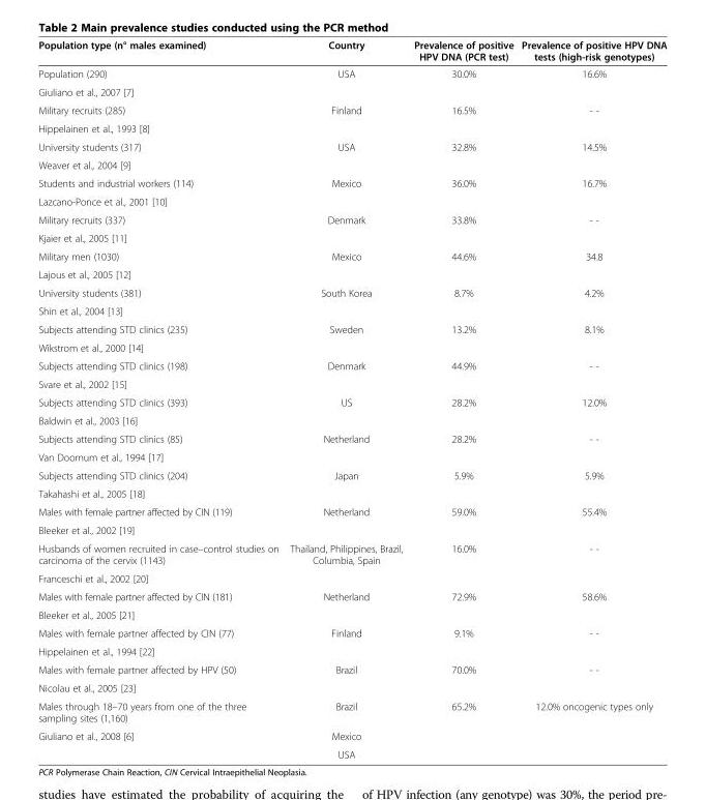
<table><thead><tr><td>Population type (n° males examined)</td><td>Country</td><td>Prevalence of positive HPV DNA (PCR test)</td><td>Prevalence of positive HPV DNA tests (high-risk genotypes)</td></tr></thead><tbody><tr><td>Population (290)</td><td rowspan="2">USA</td><td rowspan="2">30.0%</td><td rowspan="2">16.6%</td></tr><tr><td>Giuliano et al., 2007 [7]</td></tr><tr><td>Military recruits (285)</td><td rowspan="2">Finland</td><td rowspan="2">16.5%</td><td rowspan="2">- -</td></tr><tr><td>Hippelainen et al., 1993 [8]</td></tr><tr><td>University students (317)</td><td rowspan="2">USA</td><td rowspan="2">32.8%</td><td rowspan="2">14.5%</td></tr><tr><td>Weaver et al., 2004 [9]</td></tr><tr><td>Students and industrial workers (114)</td><td rowspan="2">Mexico</td><td rowspan="2">36.0%</td><td rowspan="2">16.7%</td></tr><tr><td>Lazcano-Ponce et al., 2001 [10]</td></tr><tr><td>Military recruits (337)</td><td rowspan="2">Denmark</td><td rowspan="2">33.8%</td><td rowspan="2">- -</td></tr><tr><td>Kjaier et al., 2005 [11]</td></tr><tr><td>Military men (1030)</td><td rowspan="2">Mexico</td><td rowspan="2">44.6%</td><td rowspan="2">34.8</td></tr><tr><td>Lajous et al., 2005 [12]</td></tr><tr><td>University students (381)</td><td rowspan="2">South Korea</td><td rowspan="2">8.7%</td><td rowspan="2">4.2%</td></tr><tr><td>Shin et al., 2004 [13]</td></tr><tr><td>Subjects attending STD clinics (235)</td><td rowspan="2">Sweden</td><td rowspan="2">13.2%</td><td rowspan="2">8.1%</td></tr><tr><td>Wikstrom et al., 2000 [14]</td></tr><tr><td>Subjects attending STD clinics (198)</td><td rowspan="2">Denmark</td><td rowspan="2">44.9%</td><td rowspan="2">- -</td></tr><tr><td>Svare et al., 2002 [15]</td></tr><tr><td>Subjects attending STD clinics (393)</td><td rowspan="2">US</td><td rowspan="2">28.2%</td><td rowspan="2">12.0%</td></tr><tr><td>Baldwin et al., 2003 [16]</td></tr><tr><td>Subjects attending STD clinics (85)</td><td rowspan="2">Netherland</td><td rowspan="2">28.2%</td><td rowspan="2">- -</td></tr><tr><td>Van Doornum et al., 1994 [17]</td></tr><tr><td>Subjects attending STD clinics (204)</td><td rowspan="2">Japan</td><td rowspan="2">5.9%</td><td rowspan="2">5.9%</td></tr><tr><td>Takahashi et al., 2005 [18]</td></tr><tr><td>Males with female partner affected by CIN (119)</td><td rowspan="2">Netherland</td><td rowspan="2">59.0%</td><td rowspan="2">55.4%</td></tr><tr><td>Bleeker et al., 2002 [19]</td></tr><tr><td>Husbands of women recruited in case–control studies on carcinoma of the cervix (1143)</td><td rowspan="2">Thailand, Philippines, Brazil, Columbia, Spain</td><td rowspan="2">16.0%</td><td rowspan="2">- -</td></tr><tr><td>Franceschi et al., 2002 [20]</td></tr><tr><td>Males with female partner affected by CIN (181)</td><td rowspan="2">Netherland</td><td rowspan="2">72.9%</td><td rowspan="2">58.6%</td></tr><tr><td>Bleeker et al., 2005 [21]</td></tr><tr><td>Males with female partner affected by CIN (77)</td><td rowspan="2">Finland</td><td rowspan="2">9.1%</td><td rowspan="2">- -</td></tr><tr><td>Hippelainen et al., 1994 [22]</td></tr><tr><td>Males with female partner affected by HPV (50)</td><td>Brazil</td><td rowspan="2">70.0%</td><td rowspan="2">- -</td></tr><tr><td colspan="2">Nicolau et al., 2005 [23]</td></tr><tr><td>Males through 18–70 years from one of the three sampling sites (1,160)</td><td>Brazil</td><td rowspan="2">65.2%</td><td rowspan="2">12.0% oncogenic types only</td></tr><tr><td rowspan="2">Giuliano et al., 2008 [6]</td><td>Mexico</td></tr><tr><td>USA</td><td></td><td></td></tr></tbody></table>